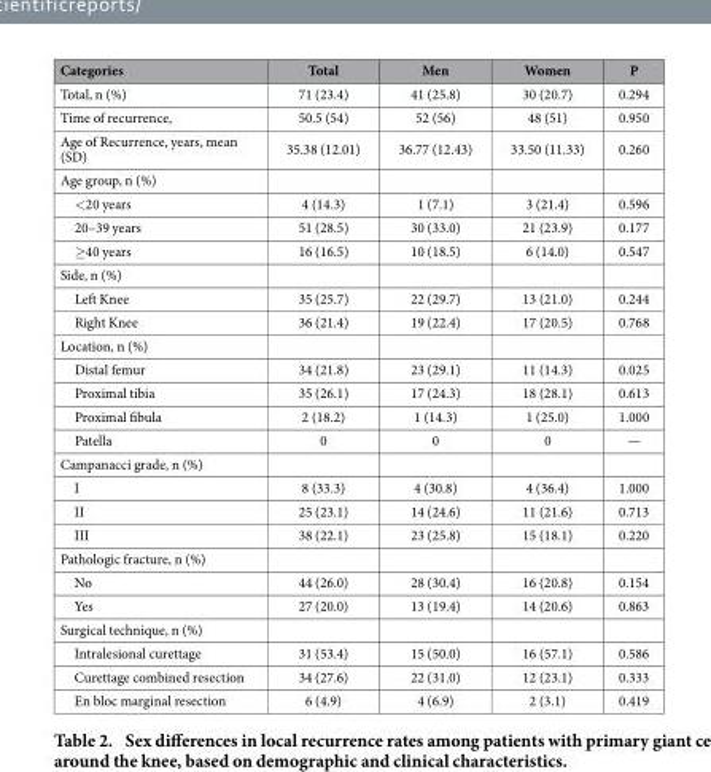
<table><thead><tr><td>Categories</td><td>Total</td><td>Men</td><td>Women</td><td>P</td></tr></thead><tbody><tr><td>Total, n (%)</td><td>71 (23.4)</td><td>41 (25.8)</td><td>30 (20.7)</td><td>0.294</td></tr><tr><td>Time of recurrence,</td><td>50.5 (54)</td><td>52 (56)</td><td>48 (51)</td><td>0.950</td></tr><tr><td>Age of Recurrence, years, mean (SD)</td><td>35.38 (12.01)</td><td>36.77 (12.43)</td><td>33.50 (11.33)</td><td>0.260</td></tr><tr><td colspan="5">Age group, n (%)</td></tr><tr><td>&lt; 20 years</td><td>4 (14.3)</td><td>1 (7.1)</td><td>3 (21.4)</td><td>0.596</td></tr><tr><td>20–39 years</td><td>51 (28.5)</td><td>30 (33.0)</td><td>21 (23.9)</td><td>0.177</td></tr><tr><td>≥ 40 years</td><td>16 (16.5)</td><td>10 (18.5)</td><td>6 (14.0)</td><td>0.547</td></tr><tr><td colspan="5">Side, n (%)</td></tr><tr><td>Left Knee</td><td>35 (25.7)</td><td>22 (29.7)</td><td>13 (21.0)</td><td>0.244</td></tr><tr><td>Right Knee</td><td>36 (21.4)</td><td>19 (22.4)</td><td>17 (20.5)</td><td>0.768</td></tr><tr><td colspan="5">Location, n (%)</td></tr><tr><td>Distal femur</td><td>34 (21.8)</td><td>23 (29.1)</td><td>11 (14.3)</td><td>0.025</td></tr><tr><td>Proximal tibia</td><td>35 (26.1)</td><td>17 (24.3)</td><td>18 (28.1)</td><td>0.613</td></tr><tr><td>Proximal fibula</td><td>2 (18.2)</td><td>1 (14.3)</td><td>1 (25.0)</td><td>1.000</td></tr><tr><td>Patella</td><td>0</td><td>0</td><td>0</td><td>—</td></tr><tr><td colspan="5">Campanacci grade, n (%)</td></tr><tr><td>I</td><td>8 (33.3)</td><td>4 (30.8)</td><td>4 (36.4)</td><td>1.000</td></tr><tr><td>II</td><td>25 (23.1)</td><td>14 (24.6)</td><td>11 (21.6)</td><td>0.713</td></tr><tr><td>III</td><td>38 (22.1)</td><td>23 (25.8)</td><td>15 (18.1)</td><td>0.220</td></tr><tr><td colspan="5">Pathologic fracture, n (%)</td></tr><tr><td>No</td><td>44 (26.0)</td><td>28 (30.4)</td><td>16 (20.8)</td><td>0.154</td></tr><tr><td>Yes</td><td>27 (20.0)</td><td>13 (19.4)</td><td>14 (20.6)</td><td>0.863</td></tr><tr><td colspan="5">Surgical technique, n (%)</td></tr><tr><td>Intralesional curettage</td><td>31 (53.4)</td><td>15 (50.0)</td><td>16 (57.1)</td><td>0.586</td></tr><tr><td>Curettage combined resection</td><td>34 (27.6)</td><td>22 (31.0)</td><td>12 (23.1)</td><td>0.333</td></tr><tr><td>En bloc marginal resection</td><td>6 (4.9)</td><td>4 (6.9)</td><td>2 (3.1)</td><td>0.419</td></tr></tbody></table>